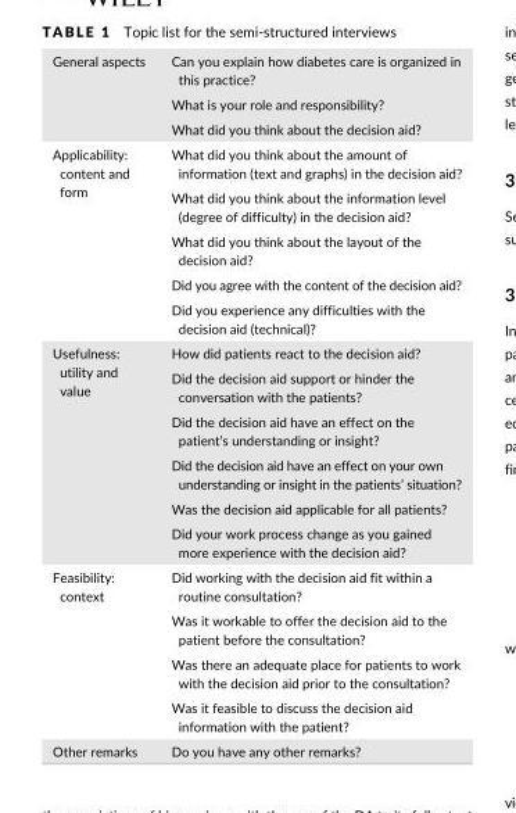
<table><tbody><tr><td rowspan="3">General aspects</td><td>Can you explain how diabetes care is organized in this practice?</td></tr><tr><td>What is your role and responsibility?</td></tr><tr><td>What did you think about the decision aid?</td></tr><tr><td rowspan="5">Applicability: content and form</td><td>What did you think about the amount of information (text and graphs) in the decision aid?</td></tr><tr><td>What did you think about the information level (degree of difficulty) in the decision aid?</td></tr><tr><td>What did you think about the layout of the decision aid?</td></tr><tr><td>Did you agree with the content of the decision aid?</td></tr><tr><td>Did you experience any difficulties with the decision aid (technical)?</td></tr><tr><td rowspan="6">Usefulness: utility and value</td><td>How did patients react to the decision aid?</td></tr><tr><td>Did the decision aid support or hinder the conversation with the patients?</td></tr><tr><td>Did the decision aid have an effect on the patient’s understanding or insight?</td></tr><tr><td>Did the decision aid have an effect on your own understanding or insight in the patients’ situation?</td></tr><tr><td>Was the decision aid applicable for all patients?</td></tr><tr><td>Did your work process change as you gained more experience with the decision aid?</td></tr><tr><td rowspan="4">Feasibility: context</td><td>Did working with the decision aid fit within a routine consultation?</td></tr><tr><td>Was it workable to offer the decision aid to the patient before the consultation?</td></tr><tr><td>Was there an adequate place for patients to work with the decision aid prior to the consultation?</td></tr><tr><td>Was it feasible to discuss the decision aid information with the patient?</td></tr><tr><td>Other remarks</td><td>Do you have any other remarks?</td></tr></tbody></table>